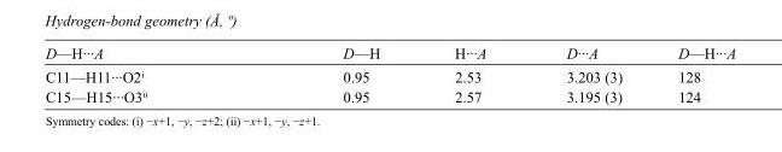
<table><tbody><tr><td>D—H···A</td><td>D—H</td><td>H···A</td><td>D···A</td><td>D—H···A</td></tr><tr><td>C11—H11···O2<sup>i</sup></td><td>0.95</td><td>2.53</td><td>3.203 (3)</td><td>128</td></tr><tr><td>C15—H15···O3<sup>ii</sup></td><td>0.95</td><td>2.57</td><td>3.195 (3)</td><td>124</td></tr></tbody></table>